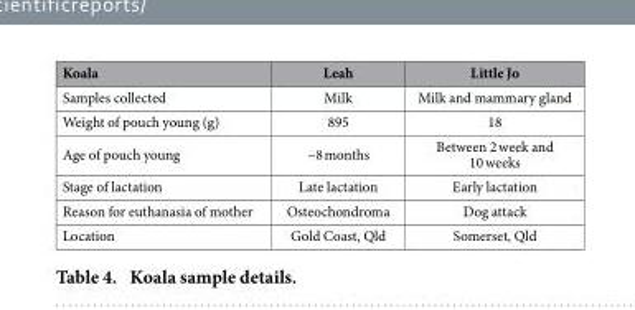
<table><thead><tr><td>Koala</td><td>Leah</td><td>Little Jo</td></tr></thead><tbody><tr><td>Samples collected</td><td>Milk</td><td>Milk and mammary gland</td></tr><tr><td>Weight of pouch young (g)</td><td>895</td><td>18</td></tr><tr><td>Age of pouch young</td><td>~8 months</td><td>Between 2 week and 10 weeks</td></tr><tr><td>Stage of lactation</td><td>Late lactation</td><td>Early lactation</td></tr><tr><td>Reason for euthanasia of mother</td><td>Osteochondroma</td><td>Dog attack</td></tr><tr><td>Location</td><td>Gold Coast, Qld</td><td>Somerset, Qld</td></tr></tbody></table>